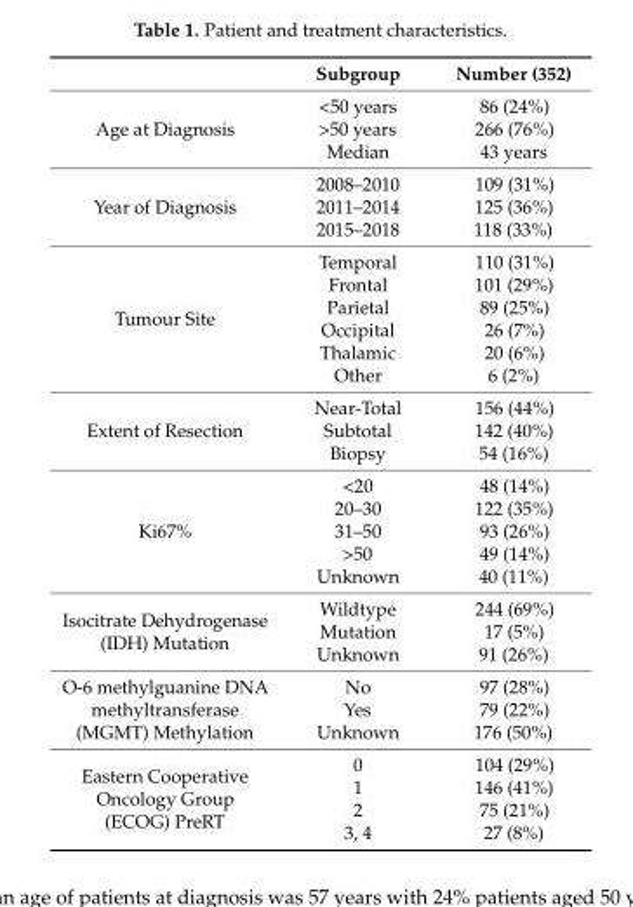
<table><thead><tr><td></td><td>Subgroup</td><td>Number (352)</td></tr></thead><tbody><tr><td>Age at Diagnosis</td><td>&lt;50 years &gt;50 years Median</td><td>86 (24%) 266 (76%) 43 years</td></tr><tr><td>Year of Diagnosis</td><td>2008–2010 2011–2014 2015–2018</td><td>109 (31%) 125 (36%) 118 (33%)</td></tr><tr><td>Tumour Site</td><td>Temporal Frontal Parietal Occipital Thalamic Other</td><td>110 (31%) 101 (29%) 89 (25%) 26 (7%) 20 (6%) 6 (2%)</td></tr><tr><td>Extent of Resection</td><td>Near-Total Subtotal Biopsy</td><td>156 (44%) 142 (40%) 54 (16%)</td></tr><tr><td>Ki67%</td><td>&lt;20 20–30 31–50 &gt;50 Unknown</td><td>48 (14%) 122 (35%) 93 (26%) 49 (14%) 40 (11%)</td></tr><tr><td>Isocitrate Dehydrogenase (IDH) Mutation</td><td>Wildtype Mutation Unknown</td><td>244 (69%) 17 (5%) 91 (26%)</td></tr><tr><td>O-6 methylguanine DNA methyltransferase (MGMT) Methylation</td><td>No Yes Unknown</td><td>97 (28%) 79 (22%) 176 (50%)</td></tr><tr><td>Eastern Cooperative Oncology Group (ECOG) PreRT</td><td>0 1 2 3, 4</td><td>104 (29%) 146 (41%) 75 (21%) 27 (8%)</td></tr></tbody></table>